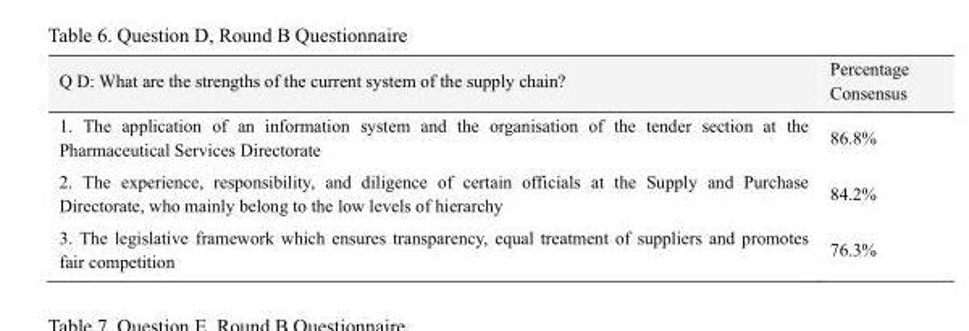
<table><thead><tr><td>Q D: What are the strengths of the current system of the supply chain?</td><td>Percentage Consensus</td></tr></thead><tbody><tr><td>1. The application of an information system and the organisation of the tender section at the Pharmaceutical Services Directorate</td><td>86.8%</td></tr><tr><td>2. The experience, responsibility, and diligence of certain officials at the Supply and Purchase Directorate, who mainly belong to the low levels of hierarchy</td><td>84.2%</td></tr><tr><td>3. The legislative framework which ensures transparency, equal treatment of suppliers and promotes fair competition</td><td>76.3%</td></tr></tbody></table>